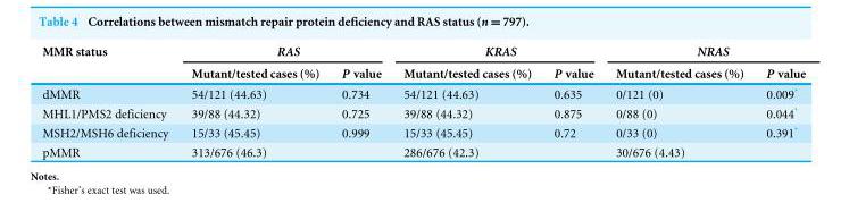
<table><thead><tr><td rowspan="2">MMR status</td><td colspan="2">RAS</td><td colspan="2">KRAS</td><td colspan="2">NRAS</td></tr><tr><td>Mutant/tested cases (%)</td><td>P value</td><td>Mutant/tested cases (%)</td><td>P value</td><td>Mutant/tested cases (%)</td><td>P value</td></tr></thead><tbody><tr><td>dMMR</td><td>54/121 (44.63)</td><td>0.734</td><td>54/121 (44.63)</td><td>0.635</td><td>0/121 (0)</td><td>0.009*</td></tr><tr><td>MHL1/PMS2 deficiency</td><td>39/88 (44.32)</td><td>0.725</td><td>39/88 (44.32)</td><td>0.875</td><td>0/88 (0)</td><td>0.044*</td></tr><tr><td>MSH2/MSH6 deficiency</td><td>15/33 (45.45)</td><td>0.999</td><td>15/33 (45.45)</td><td>0.72</td><td>0/33 (0)</td><td>0.391*</td></tr><tr><td>pMMR</td><td>313/676 (46.3)</td><td></td><td>286/676 (42.3)</td><td></td><td>30/676 (4.43)</td><td></td></tr></tbody></table>